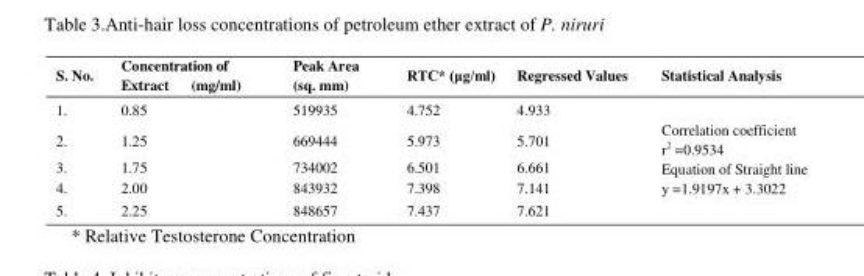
<table><thead><tr><td>S. No.</td><td>Concentration of Extract (mg/ml)</td><td>Peak Area (sq. mm)</td><td>RTC* (μg/ml)</td><td>Regressed Values</td><td>Statistical Analysis</td></tr></thead><tbody><tr><td>1.</td><td>0.85</td><td>519935</td><td>4.752</td><td>4.933</td><td rowspan="5">Correlation coefficient r<sup>2</sup> =0.9534 Equation of Straight line y =1.9197x + 3.3022</td></tr><tr><td>2.</td><td>1.25</td><td>669444</td><td>5.973</td><td>5.701</td></tr><tr><td>3.</td><td>1.75</td><td>734002</td><td>6.501</td><td>6.661</td></tr><tr><td>4.</td><td>2.00</td><td>843932</td><td>7.398</td><td>7.141</td></tr><tr><td>5.</td><td>2.25</td><td>848657</td><td>7.437</td><td>7.621</td></tr></tbody></table>